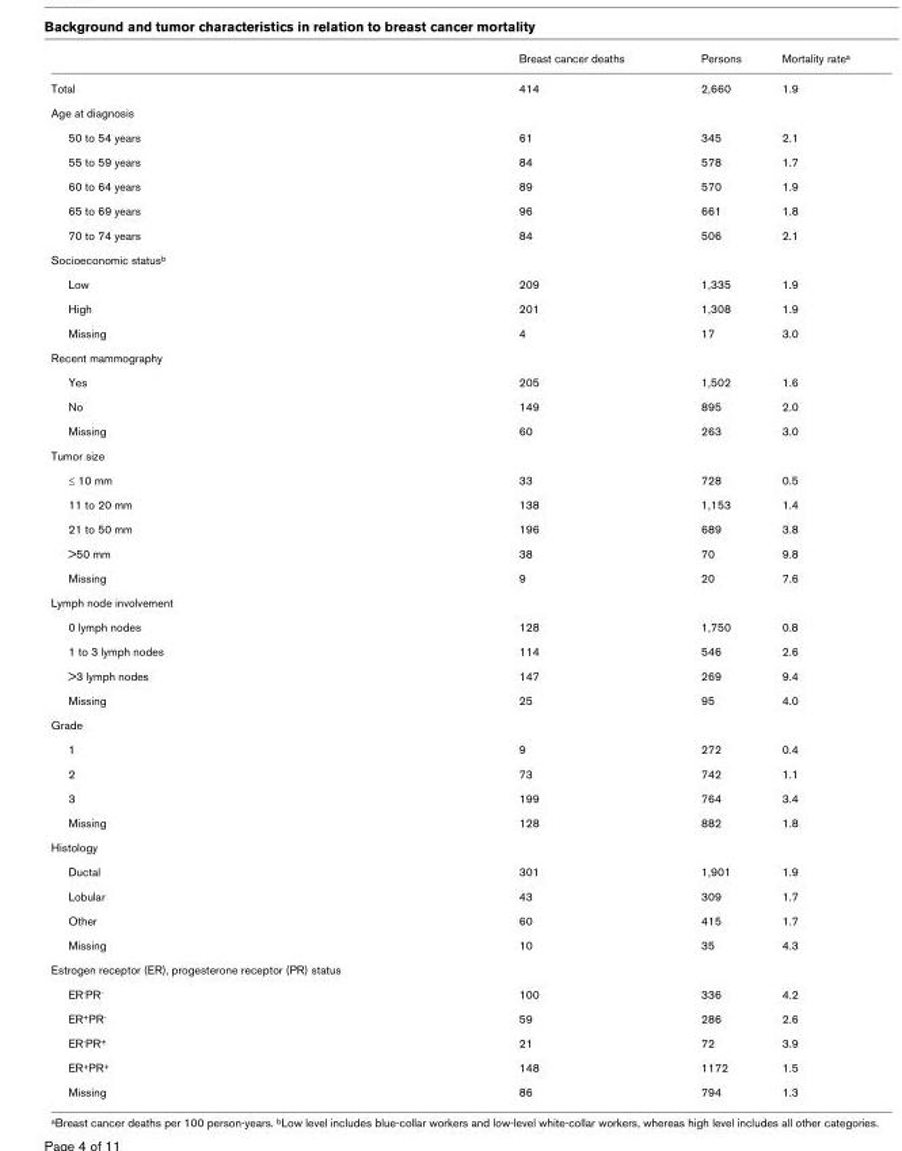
<table><thead><tr><td></td><td>Breast cancer deaths</td><td>Persons</td><td>Mortality rate<sup>a</sup></td></tr></thead><tbody><tr><td>Total</td><td>414</td><td>2,660</td><td>1.9</td></tr><tr><td colspan="4">Age at diagnosis</td></tr><tr><td>50 to 54 years</td><td>61</td><td>345</td><td>2.1</td></tr><tr><td>55 to 59 years</td><td>84</td><td>578</td><td>1.7</td></tr><tr><td>60 to 64 years</td><td>89</td><td>570</td><td>1.9</td></tr><tr><td>65 to 69 years</td><td>96</td><td>661</td><td>1.8</td></tr><tr><td>70 to 74 years</td><td>84</td><td>506</td><td>2.1</td></tr><tr><td colspan="4">Socioeconomic status<sup>b</sup></td></tr><tr><td>Low</td><td>209</td><td>1,335</td><td>1.9</td></tr><tr><td>High</td><td>201</td><td>1,308</td><td>1.9</td></tr><tr><td>Missing</td><td>4</td><td>17</td><td>3.0</td></tr><tr><td colspan="4">Recent mammography</td></tr><tr><td>Yes</td><td>205</td><td>1,502</td><td>1.6</td></tr><tr><td>No</td><td>149</td><td>895</td><td>2.0</td></tr><tr><td>Missing</td><td>60</td><td>263</td><td>3.0</td></tr><tr><td colspan="4">Tumor size</td></tr><tr><td>≤ 10 mm</td><td>33</td><td>728</td><td>0.5</td></tr><tr><td>11 to 20 mm</td><td>138</td><td>1,153</td><td>1.4</td></tr><tr><td>21 to 50 mm</td><td>196</td><td>689</td><td>3.8</td></tr><tr><td>&gt;50 mm</td><td>38</td><td>70</td><td>9.8</td></tr><tr><td>Missing</td><td>9</td><td>20</td><td>7.6</td></tr><tr><td colspan="4">Lymph node involvement</td></tr><tr><td>0 lymph nodes</td><td>128</td><td>1,750</td><td>0.8</td></tr><tr><td>1 to 3 lymph nodes</td><td>114</td><td>546</td><td>2.6</td></tr><tr><td>&gt;3 lymph nodes</td><td>147</td><td>269</td><td>9.4</td></tr><tr><td>Missing</td><td>25</td><td>95</td><td>4.0</td></tr><tr><td colspan="4">Grade</td></tr><tr><td>1</td><td>9</td><td>272</td><td>0.4</td></tr><tr><td>2</td><td>73</td><td>742</td><td>1.1</td></tr><tr><td>3</td><td>199</td><td>764</td><td>3.4</td></tr><tr><td>Missing</td><td>128</td><td>882</td><td>1.8</td></tr><tr><td colspan="4">Histology</td></tr><tr><td>Ductal</td><td>301</td><td>1,901</td><td>1.9</td></tr><tr><td>Lobular</td><td>43</td><td>309</td><td>1.7</td></tr><tr><td>Other</td><td>60</td><td>415</td><td>1.7</td></tr><tr><td>Missing</td><td>10</td><td>35</td><td>4.3</td></tr><tr><td colspan="4">Estrogen receptor (ER), progesterone receptor (PR) status</td></tr><tr><td>ER<sup>-</sup>PR<sup>-</sup></td><td>100</td><td>336</td><td>4.2</td></tr><tr><td>ER<sup>+</sup>PR<sup>-</sup></td><td>59</td><td>286</td><td>2.6</td></tr><tr><td>ER<sup>-</sup>PR<sup>+</sup></td><td>21</td><td>72</td><td>3.9</td></tr><tr><td>ER<sup>+</sup>PR<sup>+</sup></td><td>148</td><td>1172</td><td>1.5</td></tr><tr><td>Missing</td><td>86</td><td>794</td><td>1.3</td></tr></tbody></table>